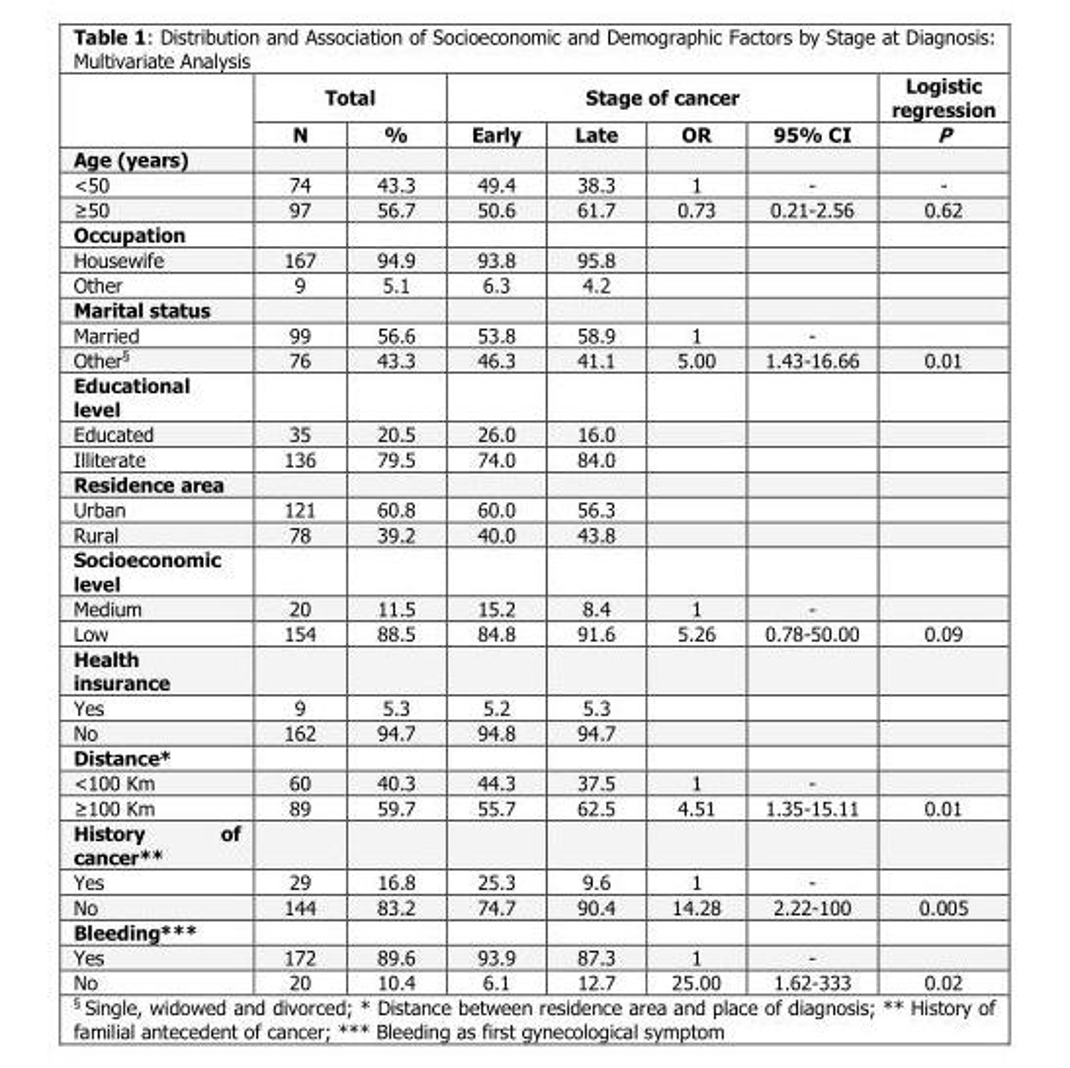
<table><thead><tr><td rowspan="2"></td><td colspan="2">Total</td><td colspan="4">Stage of cancer</td><td rowspan="2">Logistic regression P</td></tr><tr><td>N</td><td>%</td><td>Early</td><td>Late</td><td>OR</td><td>95% CI</td></tr></thead><tbody><tr><td colspan="8">Age (years)</td></tr><tr><td>&lt;50</td><td>74</td><td>43.3</td><td>49.4</td><td>38.3</td><td>1</td><td>-</td><td>-</td></tr><tr><td>≥50</td><td>97</td><td>56.7</td><td>50.6</td><td>61.7</td><td>0.73</td><td>0.21-2.56</td><td>0.62</td></tr><tr><td colspan="8">Occupation</td></tr><tr><td>Housewife</td><td>167</td><td>94.9</td><td>93.8</td><td>95.8</td><td></td><td></td><td></td></tr><tr><td>Other</td><td>9</td><td>5.1</td><td>6.3</td><td>4.2</td><td></td><td></td><td></td></tr><tr><td colspan="8">Marital status</td></tr><tr><td>Married</td><td>99</td><td>56.6</td><td>53.8</td><td>58.9</td><td>1</td><td>-</td><td></td></tr><tr><td>Other§</td><td>76</td><td>43.3</td><td>46.3</td><td>41.1</td><td>5.00</td><td>1.43-16.66</td><td>0.01</td></tr><tr><td colspan="8">Educational level</td></tr><tr><td>Educated</td><td>35</td><td>20.5</td><td>26.0</td><td>16.0</td><td></td><td></td><td></td></tr><tr><td>Illiterate</td><td>136</td><td>79.5</td><td>74.0</td><td>84.0</td><td></td><td></td><td></td></tr><tr><td colspan="8">Residence area</td></tr><tr><td>Urban</td><td>121</td><td>60.8</td><td>60.0</td><td>56.3</td><td></td><td></td><td></td></tr><tr><td>Rural</td><td>78</td><td>39.2</td><td>40.0</td><td>43.8</td><td></td><td></td><td></td></tr><tr><td colspan="8">Socioeconomic level</td></tr><tr><td>Medium</td><td>20</td><td>11.5</td><td>15.2</td><td>8.4</td><td>1</td><td>-</td><td></td></tr><tr><td>Low</td><td>154</td><td>88.5</td><td>84.8</td><td>91.6</td><td>5.26</td><td>0.78-50.00</td><td>0.09</td></tr><tr><td colspan="8">Health insurance</td></tr><tr><td>Yes</td><td>9</td><td>5.3</td><td>5.2</td><td>5.3</td><td></td><td></td><td></td></tr><tr><td>No</td><td>162</td><td>94.7</td><td>94.8</td><td>94.7</td><td></td><td></td><td></td></tr><tr><td colspan="8">Distance*</td></tr><tr><td>&lt;100 Km</td><td>60</td><td>40.3</td><td>44.3</td><td>37.5</td><td>1</td><td>-</td><td></td></tr><tr><td>≥100 Km</td><td>89</td><td>59.7</td><td>55.7</td><td>62.5</td><td>4.51</td><td>1.35-15.11</td><td>0.01</td></tr><tr><td colspan="8">History of cancer**</td></tr><tr><td>Yes</td><td>29</td><td>16.8</td><td>25.3</td><td>9.6</td><td>1</td><td>-</td><td></td></tr><tr><td>No</td><td>144</td><td>83.2</td><td>74.7</td><td>90.4</td><td>14.28</td><td>2.22-100</td><td>0.005</td></tr><tr><td colspan="8">Bleeding***</td></tr><tr><td>Yes</td><td>172</td><td>89.6</td><td>93.9</td><td>87.3</td><td>1</td><td>-</td><td></td></tr><tr><td>No</td><td>20</td><td>10.4</td><td>6.1</td><td>12.7</td><td>25.00</td><td>1.62-333</td><td>0.02</td></tr></tbody></table>